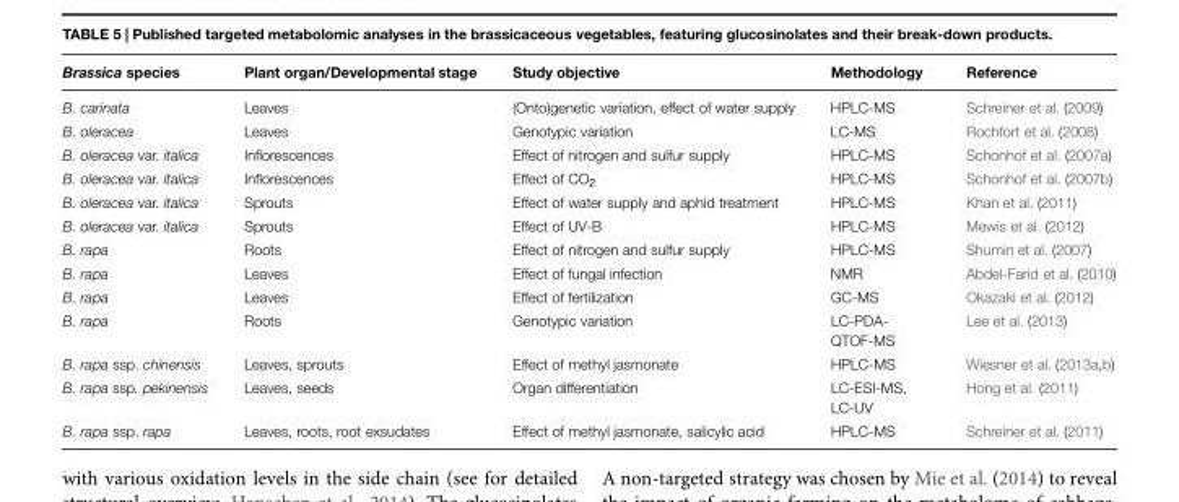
<table><thead><tr><td>Brassica species</td><td>Plant organ/Developmental stage</td><td>Study objective</td><td>Methodology</td><td>Reference</td></tr></thead><tbody><tr><td>B. carinata</td><td>Leaves</td><td>(Onto)genetic variation, effect of water supply</td><td>HPLC-MS</td><td>Schreiner et al. (2009)</td></tr><tr><td>B. oleracea</td><td>Leaves</td><td>Genotypic variation</td><td>LC-MS</td><td>Rochfort et al. (2008)</td></tr><tr><td>B. oleracea var. italica</td><td>Inflorescences</td><td>Effect of nitrogen and sulfur supply</td><td>HPLC-MS</td><td>Schonhof et al. (2007a)</td></tr><tr><td>B. oleracea var. italica</td><td>Inflorescences</td><td>Effect of CO<sub>2</sub></td><td>HPLC-MS</td><td>Schonhof et al. (2007b)</td></tr><tr><td>B. oleracea var. italica</td><td>Sprouts</td><td>Effect of water supply and aphid treatment</td><td>HPLC-MS</td><td>Khan et al. (2011)</td></tr><tr><td>B. oleracea var. italica</td><td>Sprouts</td><td>Effect of UV-B</td><td>HPLC-MS</td><td>Mewis et al. (2012)</td></tr><tr><td>B. rapa</td><td>Roots</td><td>Effect of nitrogen and sulfur supply</td><td>HPLC-MS</td><td>Shumin et al. (2007)</td></tr><tr><td>B. rapa</td><td>Leaves</td><td>Effect of fungal infection</td><td>NMR</td><td>Abdel-Farid et al. (2010)</td></tr><tr><td>B. rapa</td><td>Leaves</td><td>Effect of fertilization</td><td>GC-MS</td><td>Okazaki et al. (2012)</td></tr><tr><td>B. rapa</td><td>Roots</td><td>Genotypic variation</td><td>LC-PDA- QTOF-MS</td><td>Lee et al. (2013)</td></tr><tr><td>B. rapa ssp. chinensis</td><td>Leaves, sprouts</td><td>Effect of methyl jasmonate</td><td>HPLC-MS</td><td>Wiesner et al. (2013a,b)</td></tr><tr><td>B. rapa ssp. pekinensis</td><td>Leaves, seeds</td><td>Organ differentiation</td><td>LC-ESI-MS, LC-UV</td><td>Hong et al. (2011)</td></tr><tr><td>B. rapa ssp. rapa</td><td>Leaves, roots, root exsudates</td><td>Effect of methyl jasmonate, salicylic acid</td><td>HPLC-MS</td><td>Schreiner et al. (2011)</td></tr></tbody></table>